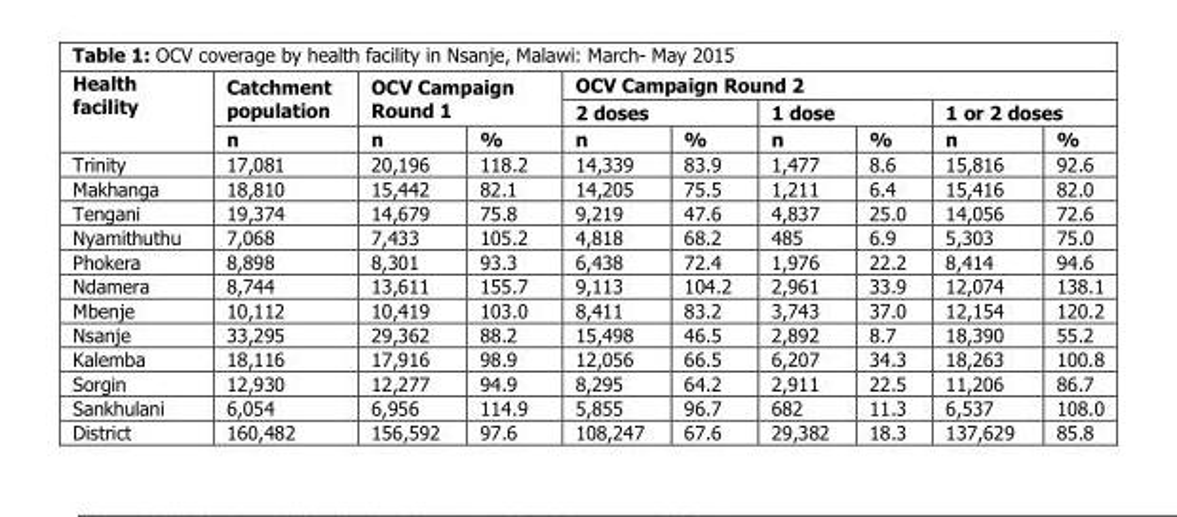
<table><thead><tr><td rowspan="3">Health facility</td><td rowspan="3">Catchment population n</td><td rowspan="2" colspan="2">OCV Campaign Round 1</td><td colspan="6">OCV Campaign Round 2</td></tr><tr><td colspan="2">2 doses</td><td colspan="2">1 dose</td><td colspan="2">1 or 2 doses</td></tr><tr><td>n</td><td>%</td><td>n</td><td>%</td><td>n</td><td>%</td><td>n</td><td>%</td></tr></thead><tbody><tr><td>Trinity</td><td>17,081</td><td>20,196</td><td>118.2</td><td>14,339</td><td>83.9</td><td>1,477</td><td>8.6</td><td>15,816</td><td>92.6</td></tr><tr><td>Makhanga</td><td>18,810</td><td>15,442</td><td>82.1</td><td>14,205</td><td>75.5</td><td>1,211</td><td>6.4</td><td>15,416</td><td>82.0</td></tr><tr><td>Tengani</td><td>19,374</td><td>14,679</td><td>75.8</td><td>9,219</td><td>47.6</td><td>4,837</td><td>25.0</td><td>14,056</td><td>72.6</td></tr><tr><td>Nyamithuthu</td><td>7,068</td><td>7,433</td><td>105.2</td><td>4,818</td><td>68.2</td><td>485</td><td>6.9</td><td>5,303</td><td>75.0</td></tr><tr><td>Phokera</td><td>8,898</td><td>8,301</td><td>93.3</td><td>6,438</td><td>72.4</td><td>1,976</td><td>22.2</td><td>8,414</td><td>94.6</td></tr><tr><td>Ndamera</td><td>8,744</td><td>13,611</td><td>155.7</td><td>9,113</td><td>104.2</td><td>2,961</td><td>33.9</td><td>12,074</td><td>138.1</td></tr><tr><td>Mbenje</td><td>10,112</td><td>10,419</td><td>103.0</td><td>8,411</td><td>83.2</td><td>3,743</td><td>37.0</td><td>12,154</td><td>120.2</td></tr><tr><td>Nsanje</td><td>33,295</td><td>29,362</td><td>88.2</td><td>15,498</td><td>46.5</td><td>2,892</td><td>8.7</td><td>18,390</td><td>55.2</td></tr><tr><td>Kalemba</td><td>18,116</td><td>17,916</td><td>98.9</td><td>12,056</td><td>66.5</td><td>6,207</td><td>34.3</td><td>18,263</td><td>100.8</td></tr><tr><td>Sorgin</td><td>12,930</td><td>12,277</td><td>94.9</td><td>8,295</td><td>64.2</td><td>2,911</td><td>22.5</td><td>11,206</td><td>86.7</td></tr><tr><td>Sankhulani</td><td>6,054</td><td>6,956</td><td>114.9</td><td>5,855</td><td>96.7</td><td>682</td><td>11.3</td><td>6,537</td><td>108.0</td></tr><tr><td>District</td><td>160,482</td><td>156,592</td><td>97.6</td><td>108,247</td><td>67.6</td><td>29,382</td><td>18.3</td><td>137,629</td><td>85.8</td></tr></tbody></table>